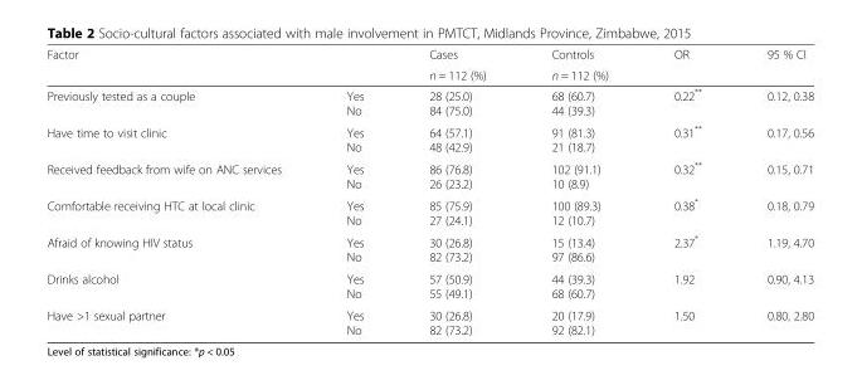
<table><thead><tr><td rowspan="2">Factor</td><td rowspan="2"></td><td rowspan="2">Cases n = 112 (%)</td><td rowspan="2">Controls n = 112 (%)</td><td rowspan="2">OR</td><td rowspan="2">95 % CI</td></tr><tr></tr></thead><tbody><tr><td>Previously tested as a couple</td><td>Yes No</td><td>28 (25.0) 84 (75.0)</td><td>68 (60.7) 44 (39.3)</td><td>0.22**</td><td>0.12, 0.38</td></tr><tr><td>Have time to visit clinic</td><td>Yes No</td><td>64 (57.1) 48 (42.9)</td><td>91 (81.3) 21 (18.7)</td><td>0.31**</td><td>0.17, 0.56</td></tr><tr><td>Received feedback from wife on ANC services</td><td>Yes No</td><td>86 (76.8) 26 (23.2)</td><td>102 (91.1) 10 (8.9)</td><td>0.32**</td><td>0.15, 0.71</td></tr><tr><td>Comfortable receiving HTC at local clinic</td><td>Yes No</td><td>85 (75.9) 27 (24.1)</td><td>100 (89.3) 12 (10.7)</td><td>0.38*</td><td>0.18, 0.79</td></tr><tr><td>Afraid of knowing HIV status</td><td>Yes No</td><td>30 (26.8) 82 (73.2)</td><td>15 (13.4) 97 (86.6)</td><td>2.37*</td><td>1.19, 4.70</td></tr><tr><td>Drinks alcohol</td><td>Yes No</td><td>57 (50.9) 55 (49.1)</td><td>44 (39.3) 68 (60.7)</td><td>1.92</td><td>0.90, 4.13</td></tr><tr><td>Have &gt;1 sexual partner</td><td>Yes No</td><td>30 (26.8) 82 (73.2)</td><td>20 (17.9) 92 (82.1)</td><td>1.50</td><td>0.80, 2.80</td></tr></tbody></table>